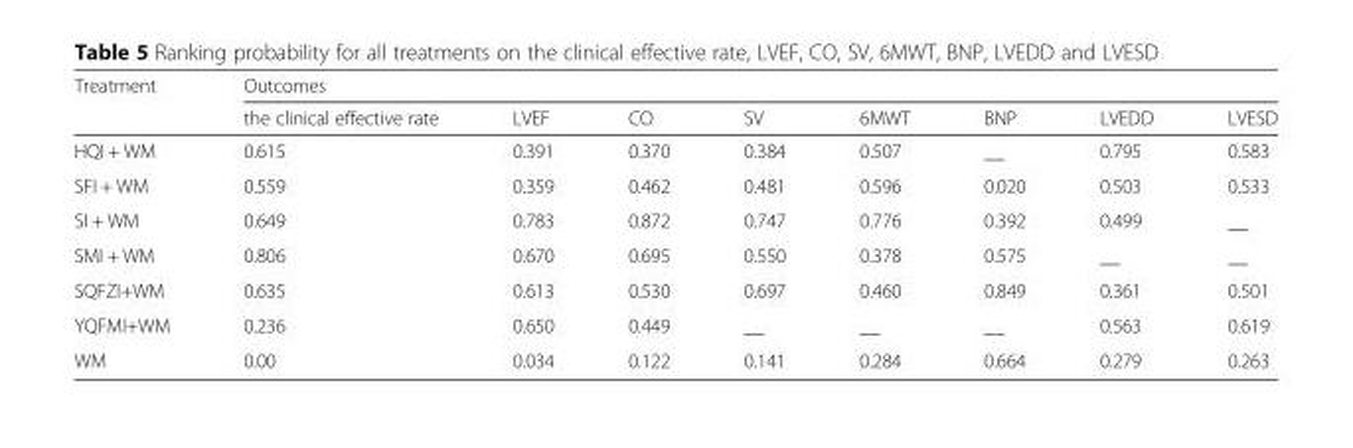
<table><thead><tr><td rowspan="2">Treatment</td><td colspan="8">Outcomes</td></tr><tr><td>the clinical effective rate</td><td>LVEF</td><td>CO</td><td>SV</td><td>6MWT</td><td>BNP</td><td>LVEDD</td><td>LVESD</td></tr></thead><tbody><tr><td>HQI + WM</td><td>0.615</td><td>0.391</td><td>0.370</td><td>0.384</td><td>0.507</td><td>__</td><td>0.795</td><td>0.583</td></tr><tr><td>SFI + WM</td><td>0.559</td><td>0.359</td><td>0.462</td><td>0.481</td><td>0.596</td><td>0.020</td><td>0.503</td><td>0.533</td></tr><tr><td>SI + WM</td><td>0.649</td><td>0.783</td><td>0.872</td><td>0.747</td><td>0.776</td><td>0.392</td><td>0.499</td><td>__</td></tr><tr><td>SMI + WM</td><td>0.806</td><td>0.670</td><td>0.695</td><td>0.550</td><td>0.378</td><td>0.575</td><td>__</td><td>__</td></tr><tr><td>SQFZI+WM</td><td>0.635</td><td>0.613</td><td>0.530</td><td>0.697</td><td>0.460</td><td>0.849</td><td>0.361</td><td>0.501</td></tr><tr><td>YQFMI+WM</td><td>0.236</td><td>0.650</td><td>0.449</td><td>__</td><td>__</td><td>__</td><td>0.563</td><td>0.619</td></tr><tr><td>WM</td><td>0.00</td><td>0.034</td><td>0.122</td><td>0.141</td><td>0.284</td><td>0.664</td><td>0.279</td><td>0.263</td></tr></tbody></table>